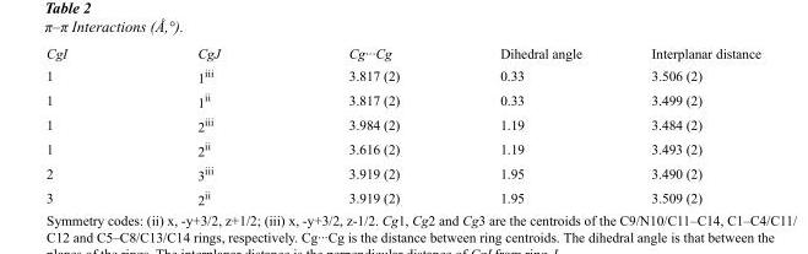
<table><tbody><tr><td>CgI</td><td>CgJ</td><td>Cg···Cg</td><td>Dihedral angle</td><td>Interplanar distance</td></tr><tr><td>1</td><td>1<sup>iii</sup></td><td>3.817 (2)</td><td>0.33</td><td>3.506 (2)</td></tr><tr><td>1</td><td>1<sup>ii</sup></td><td>3.817 (2)</td><td>0.33</td><td>3.499 (2)</td></tr><tr><td>1</td><td>2<sup>iii</sup></td><td>3.984 (2)</td><td>1.19</td><td>3.484 (2)</td></tr><tr><td>1</td><td>2<sup>ii</sup></td><td>3.616 (2)</td><td>1.19</td><td>3.493 (2)</td></tr><tr><td>2</td><td>3<sup>iii</sup></td><td>3.919 (2)</td><td>1.95</td><td>3.490 (2)</td></tr><tr><td>3</td><td>2<sup>ii</sup></td><td>3.919 (2)</td><td>1.95</td><td>3.509 (2)</td></tr></tbody></table>